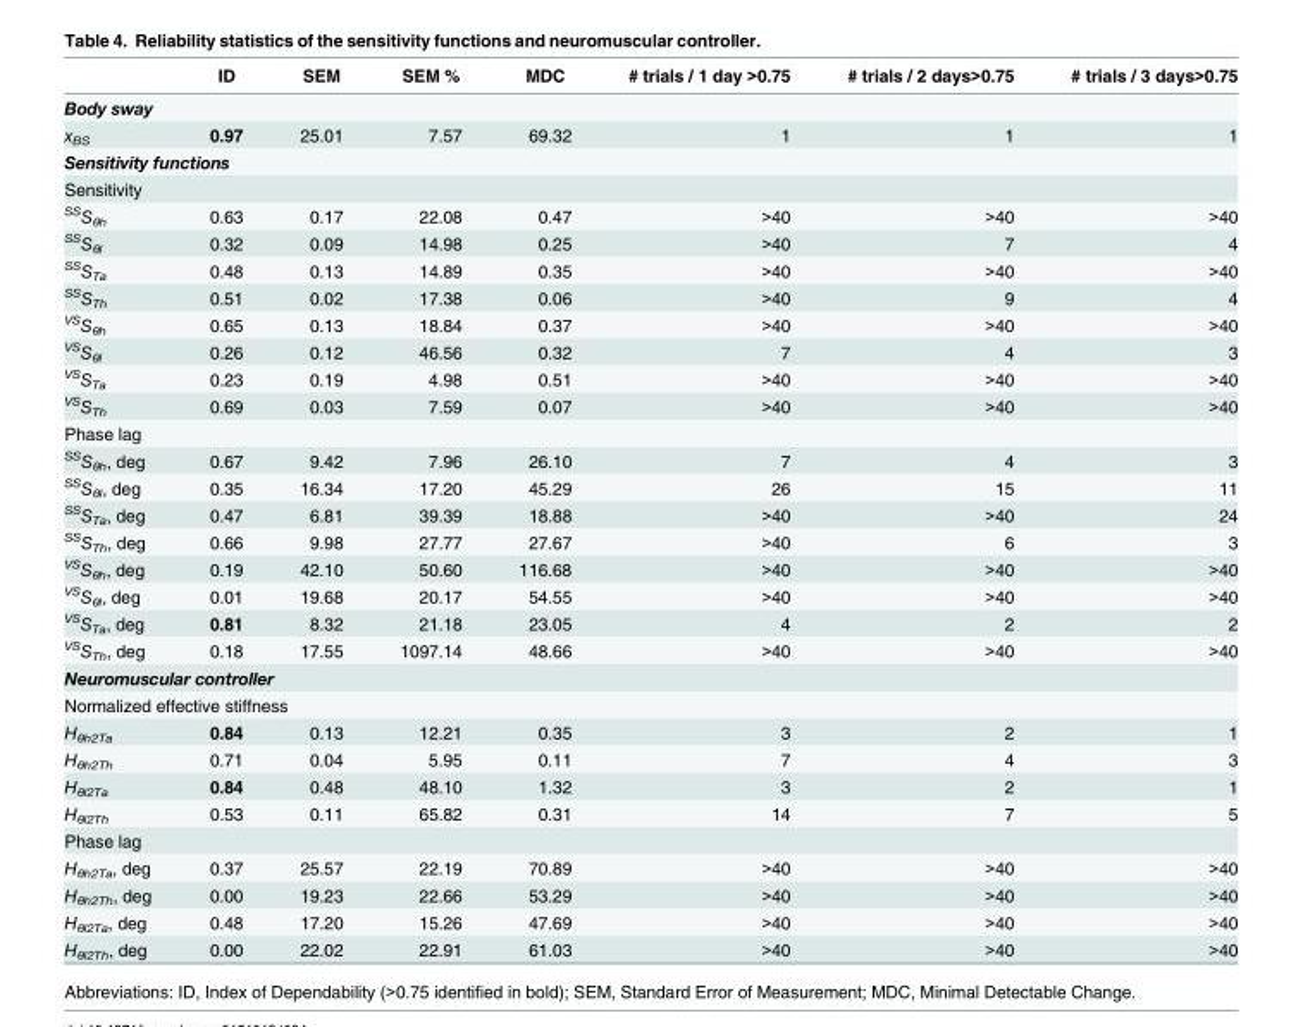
<table><thead><tr><td></td><td>ID</td><td>SEM</td><td>SEM %</td><td>MDC</td><td># trials / 1 day &gt;0.75</td><td># trials / 2 days&gt;0.75</td><td># trials / 3 days&gt;0.75</td></tr></thead><tbody><tr><td colspan="8">Body sway</td></tr><tr><td>x<sub>BS</sub></td><td>0.97</td><td>25.01</td><td>7.57</td><td>69.32</td><td>1</td><td>1</td><td>1</td></tr><tr><td colspan="8">Sensitivity functions</td></tr><tr><td colspan="8">Sensitivity</td></tr><tr><td><sup>SS</sup>S<sub>θh</sub></td><td>0.63</td><td>0.17</td><td>22.08</td><td>0.47</td><td>&gt;40</td><td>&gt;40</td><td>&gt;40</td></tr><tr><td><sup>SS</sup>S<sub>θl</sub></td><td>0.32</td><td>0.09</td><td>14.98</td><td>0.25</td><td>&gt;40</td><td>7</td><td>4</td></tr><tr><td><sup>SS</sup>S<sub>Ta</sub></td><td>0.48</td><td>0.13</td><td>14.89</td><td>0.35</td><td>&gt;40</td><td>&gt;40</td><td>&gt;40</td></tr><tr><td><sup>SS</sup>S<sub>Th</sub></td><td>0.51</td><td>0.02</td><td>17.38</td><td>0.06</td><td>&gt;40</td><td>9</td><td>4</td></tr><tr><td><sup>VS</sup>S<sub>θh</sub></td><td>0.65</td><td>0.13</td><td>18.84</td><td>0.37</td><td>&gt;40</td><td>&gt;40</td><td>&gt;40</td></tr><tr><td><sup>VS</sup>S<sub>θl</sub></td><td>0.26</td><td>0.12</td><td>46.56</td><td>0.32</td><td>7</td><td>4</td><td>3</td></tr><tr><td><sup>VS</sup>S<sub>Ta</sub></td><td>0.23</td><td>0.19</td><td>4.98</td><td>0.51</td><td>&gt;40</td><td>&gt;40</td><td>&gt;40</td></tr><tr><td><sup>VS</sup>S<sub>Th</sub></td><td>0.69</td><td>0.03</td><td>7.59</td><td>0.07</td><td>&gt;40</td><td>&gt;40</td><td>&gt;40</td></tr><tr><td colspan="8">Phase lag</td></tr><tr><td><sup>SS</sup>S<sub>θh</sub>, deg</td><td>0.67</td><td>9.42</td><td>7.96</td><td>26.10</td><td>7</td><td>4</td><td>3</td></tr><tr><td><sup>SS</sup>S<sub>θl</sub>, deg</td><td>0.35</td><td>16.34</td><td>17.20</td><td>45.29</td><td>26</td><td>15</td><td>11</td></tr><tr><td><sup>SS</sup>S<sub>Ta</sub>, deg</td><td>0.47</td><td>6.81</td><td>39.39</td><td>18.88</td><td>&gt;40</td><td>&gt;40</td><td>24</td></tr><tr><td><sup>SS</sup>S<sub>Th</sub>, deg</td><td>0.66</td><td>9.98</td><td>27.77</td><td>27.67</td><td>&gt;40</td><td>6</td><td>3</td></tr><tr><td><sup>VS</sup>S<sub>θh</sub>, deg</td><td>0.19</td><td>42.10</td><td>50.60</td><td>116.68</td><td>&gt;40</td><td>&gt;40</td><td>&gt;40</td></tr><tr><td><sup>VS</sup>S<sub>θl</sub>, deg</td><td>0.01</td><td>19.68</td><td>20.17</td><td>54.55</td><td>&gt;40</td><td>&gt;40</td><td>&gt;40</td></tr><tr><td><sup>VS</sup>S<sub>Ta</sub>, deg</td><td>0.81</td><td>8.32</td><td>21.18</td><td>23.05</td><td>4</td><td>2</td><td>2</td></tr><tr><td><sup>VS</sup>S<sub>Th</sub>, deg</td><td>0.18</td><td>17.55</td><td>1097.14</td><td>48.66</td><td>&gt;40</td><td>&gt;40</td><td>&gt;40</td></tr><tr><td colspan="8">Neuromuscular controller</td></tr><tr><td colspan="8">Normalized effective stiffness</td></tr><tr><td>H<sub>θh2Ta</sub></td><td>0.84</td><td>0.13</td><td>12.21</td><td>0.35</td><td>3</td><td>2</td><td>1</td></tr><tr><td>H<sub>θh2Th</sub></td><td>0.71</td><td>0.04</td><td>5.95</td><td>0.11</td><td>7</td><td>4</td><td>3</td></tr><tr><td>H<sub>θl2Ta</sub></td><td>0.84</td><td>0.48</td><td>48.10</td><td>1.32</td><td>3</td><td>2</td><td>1</td></tr><tr><td>H<sub>θl2Th</sub></td><td>0.53</td><td>0.11</td><td>65.82</td><td>0.31</td><td>14</td><td>7</td><td>5</td></tr><tr><td colspan="8">Phase lag</td></tr><tr><td>H<sub>θh2Ta</sub>, deg</td><td>0.37</td><td>25.57</td><td>22.19</td><td>70.89</td><td>&gt;40</td><td>&gt;40</td><td>&gt;40</td></tr><tr><td>H<sub>θh2Th</sub>, deg</td><td>0.00</td><td>19.23</td><td>22.66</td><td>53.29</td><td>&gt;40</td><td>&gt;40</td><td>&gt;40</td></tr><tr><td>H<sub>θl2Ta</sub>, deg</td><td>0.48</td><td>17.20</td><td>15.26</td><td>47.69</td><td>&gt;40</td><td>&gt;40</td><td>&gt;40</td></tr><tr><td>H<sub>θl2Th</sub>, deg</td><td>0.00</td><td>22.02</td><td>22.91</td><td>61.03</td><td>&gt;40</td><td>&gt;40</td><td>&gt;40</td></tr></tbody></table>